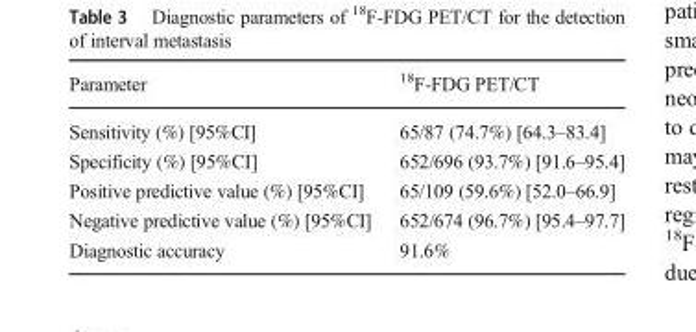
<table><thead><tr><td>Parameter</td><td><sup>18</sup>F-FDG PET/CT</td></tr></thead><tbody><tr><td>Sensitivity (%) [95%CI]</td><td>65/87 (74.7%) [64.3–83.4]</td></tr><tr><td>Specificity (%) [95%CI]</td><td>652/696 (93.7%) [91.6–95.4]</td></tr><tr><td>Positive predictive value (%) [95%CI]</td><td>65/109 (59.6%) [52.0–66.9]</td></tr><tr><td>Negative predictive value (%) [95%CI]</td><td>652/674 (96.7%) [95.4–97.7]</td></tr><tr><td>Diagnostic accuracy</td><td>91.6%</td></tr></tbody></table>